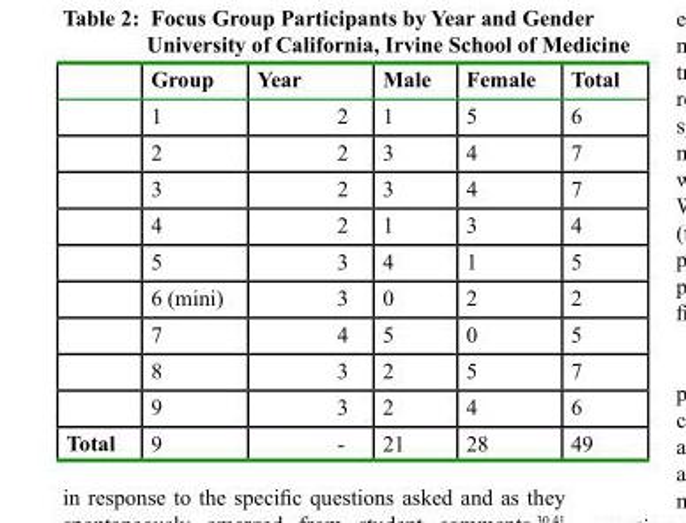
<table><thead><tr><td></td><td>Group</td><td>Year</td><td>Male</td><td>Female</td><td>Total</td></tr></thead><tbody><tr><td></td><td>1</td><td>2</td><td>1</td><td>5</td><td>6</td></tr><tr><td></td><td>2</td><td>2</td><td>3</td><td>4</td><td>7</td></tr><tr><td></td><td>3</td><td>2</td><td>3</td><td>4</td><td>7</td></tr><tr><td></td><td>4</td><td>2</td><td>1</td><td>3</td><td>4</td></tr><tr><td></td><td>5</td><td>3</td><td>4</td><td>1</td><td>5</td></tr><tr><td></td><td>6 (mini)</td><td>3</td><td>0</td><td>2</td><td>2</td></tr><tr><td></td><td>7</td><td>4</td><td>5</td><td>0</td><td>5</td></tr><tr><td></td><td>8</td><td>3</td><td>2</td><td>5</td><td>7</td></tr><tr><td></td><td>9</td><td>3</td><td>2</td><td>4</td><td>6</td></tr><tr><td>Total</td><td>9</td><td>-</td><td>21</td><td>28</td><td>49</td></tr></tbody></table>